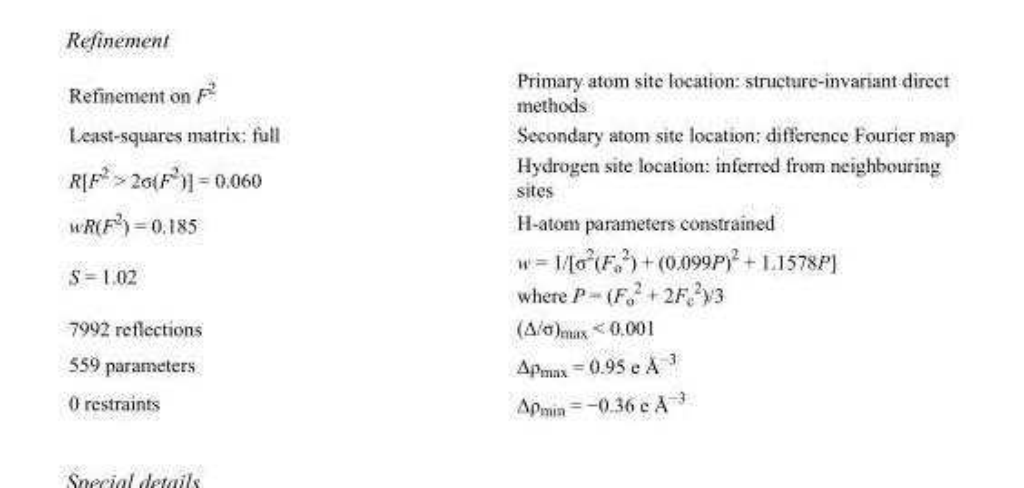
<table><tbody><tr><td>Refinement on F<sup>2</sup></td><td>Primary atom site location: structure-invariant direct methods</td></tr><tr><td>Least-squares matrix: full</td><td>Secondary atom site location: difference Fourier map</td></tr><tr><td>R[F<sup>2</sup> &gt; 2σ(F<sup>2</sup>)] = 0.060</td><td>Hydrogen site location: inferred from neighbouring sites</td></tr><tr><td>wR(F<sup>2</sup>) = 0.185</td><td>H-atom parameters constrained</td></tr><tr><td>S = 1.02</td><td>w = 1/[σ<sup>2</sup>(F<sub>o</sub> <sup>2</sup>) + (0.099P)<sup>2</sup> + 1.1578P] where P = (F<sub>o</sub> <sup>2</sup> + 2F<sub>c</sub> <sup>2</sup>)/3</td></tr><tr><td>7992 reflections</td><td>(Δ/σ)<sub>max</sub> &lt; 0.001</td></tr><tr><td>559 parameters</td><td>Δρ<sub>max</sub> = 0.95 e Å<sup>−3</sup></td></tr><tr><td>0 restraints</td><td>Δρ<sub>min</sub> = −0.36 e Å<sup>−3</sup></td></tr></tbody></table>